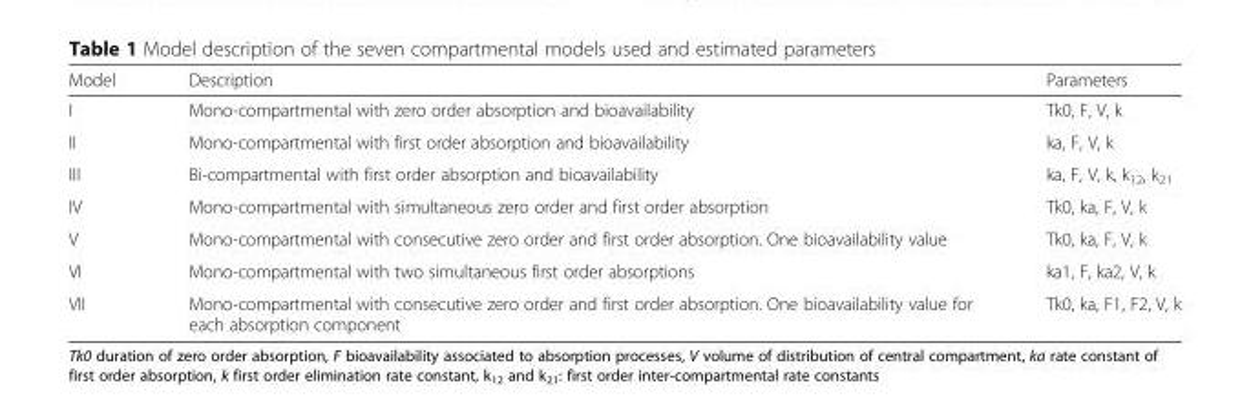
<table><thead><tr><td>Model</td><td>Description</td><td>Parameters</td></tr></thead><tbody><tr><td>I</td><td>Mono-compartmental with zero order absorption and bioavailability</td><td>Tk0, F, V, k</td></tr><tr><td>II</td><td>Mono-compartmental with first order absorption and bioavailability</td><td>ka, F, V, k</td></tr><tr><td>III</td><td>Bi-compartmental with first order absorption and bioavailability</td><td>ka, F, V, k, k<sub>12</sub>, k<sub>21</sub></td></tr><tr><td>IV</td><td>Mono-compartmental with simultaneous zero order and first order absorption</td><td>Tk0, ka, F, V, k</td></tr><tr><td>V</td><td>Mono-compartmental with consecutive zero order and first order absorption. One bioavailability value</td><td>Tk0, ka, F, V, k</td></tr><tr><td>VI</td><td>Mono-compartmental with two simultaneous first order absorptions</td><td>ka1, F, ka2, V, k</td></tr><tr><td>VII</td><td>Mono-compartmental with consecutive zero order and first order absorption. One bioavailability value for each absorption component</td><td>Tk0, ka, F1, F2, V, k</td></tr></tbody></table>